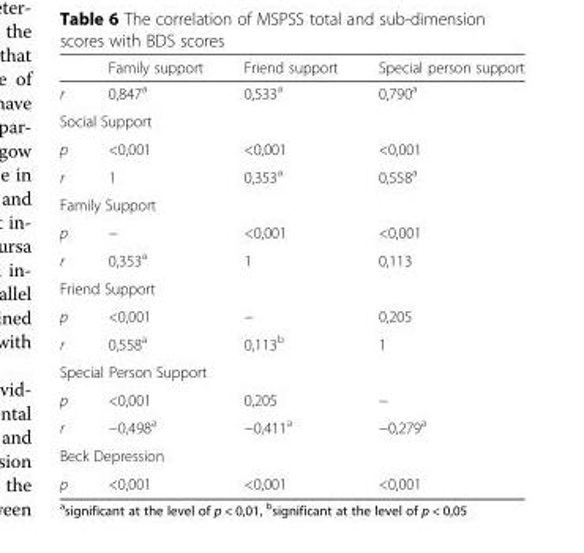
<table><thead><tr><td></td><td>Family support</td><td>Friend support</td><td>Special person support</td></tr></thead><tbody><tr><td>r</td><td>0,847<sup>a</sup></td><td>0,533<sup>a</sup></td><td>0,790<sup>a</sup></td></tr><tr><td colspan="4">Social Support</td></tr><tr><td>p</td><td>&lt;0,001</td><td>&lt;0,001</td><td>&lt;0,001</td></tr><tr><td>r</td><td>1</td><td>0,353<sup>a</sup></td><td>0,558<sup>a</sup></td></tr><tr><td colspan="4">Family Support</td></tr><tr><td>p</td><td>−</td><td>&lt;0,001</td><td>&lt;0,001</td></tr><tr><td>r</td><td>0,353<sup>a</sup></td><td>1</td><td>0,113</td></tr><tr><td colspan="4">Friend Support</td></tr><tr><td>p</td><td>&lt;0,001</td><td>−</td><td>0,205</td></tr><tr><td>r</td><td>0,558<sup>a</sup></td><td>0,113<sup>b</sup></td><td>1</td></tr><tr><td colspan="4">Special Person Support</td></tr><tr><td>p</td><td>&lt;0,001</td><td>0,205</td><td>−</td></tr><tr><td>r</td><td>−0,498<sup>a</sup></td><td>−0,411<sup>a</sup></td><td>−0,279<sup>a</sup></td></tr><tr><td colspan="4">Beck Depression</td></tr><tr><td>p</td><td>&lt;0,001</td><td>&lt;0,001</td><td>&lt;0,001</td></tr></tbody></table>